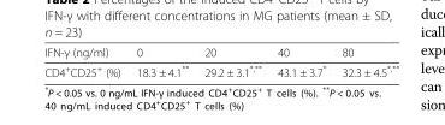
<table><thead><tr><td>IFN-γ (ng/ml)</td><td>0</td><td>20</td><td>40</td><td>80</td></tr></thead><tbody><tr><td>CD4<sup>+</sup>CD25<sup>+</sup> (%)</td><td>18.3 ± 4.1**</td><td>29.2 ± 3.1<sup>*,**</sup></td><td>43.1 ± 3.7*</td><td>32.3 ± 4.5<sup>*,**</sup></td></tr></tbody></table>